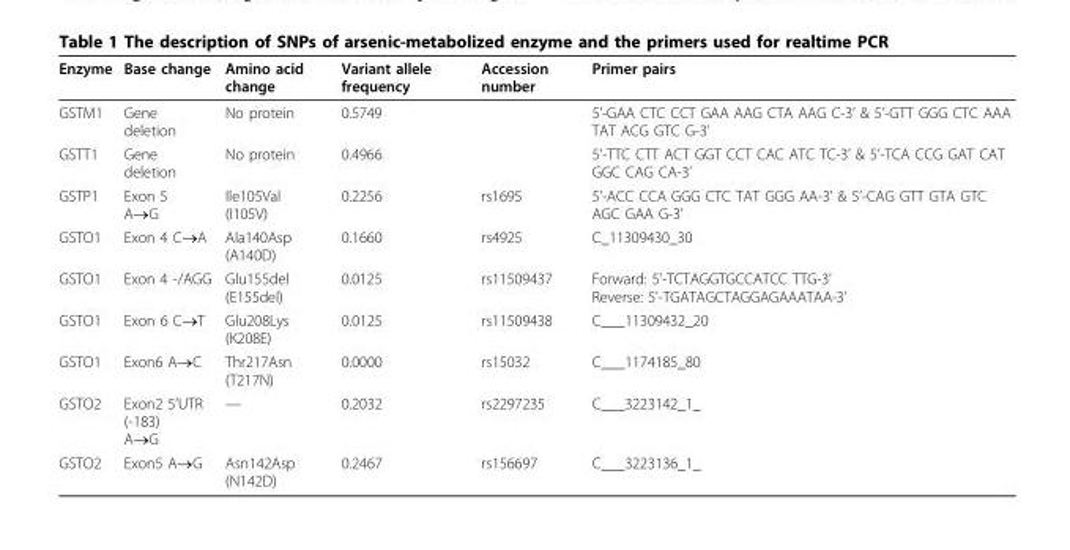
<table><thead><tr><td>Enzyme</td><td>Base change</td><td>Amino acid change</td><td>Variant allele frequency</td><td>Accession number</td><td>Primer pairs</td></tr></thead><tbody><tr><td>GSTM1</td><td>Gene deletion</td><td>No protein</td><td>0.5749</td><td></td><td>5’-GAA CTC CCT GAA AAG CTA AAG C-3’ &amp; 5’-GTT GGG CTC AAA TAT ACG GTC G-3’</td></tr><tr><td>GSTT1</td><td>Gene deletion</td><td>No protein</td><td>0.4966</td><td></td><td>5’-TTC CTT ACT GGT CCT CAC ATC TC-3’ &amp; 5’-TCA CCG GAT CAT GGC CAG CA-3’</td></tr><tr><td>GSTP1</td><td>Exon 5 A→G</td><td>Ile105Val (I105V)</td><td>0.2256</td><td>rs1695</td><td>5’-ACC CCA GGG CTC TAT GGG AA-3’ &amp; 5’-CAG GTT GTA GTC AGC GAA G-3’</td></tr><tr><td>GSTO1</td><td>Exon 4 C→A</td><td>Ala140Asp (A140D)</td><td>0.1660</td><td>rs4925</td><td>C_11309430_30</td></tr><tr><td>GSTO1</td><td>Exon 4 -/AGG</td><td>Glu155del (E155del)</td><td>0.0125</td><td>rs11509437</td><td>Forward: 5’-TCTAGGTGCCATCC TTG-3’ Reverse: 5’-TGATAGCTAGGAGAAATAA-3’</td></tr><tr><td>GSTO1</td><td>Exon 6 C→T</td><td>Glu208Lys (K208E)</td><td>0.0125</td><td>rs11509438</td><td>C___11309432_20</td></tr><tr><td>GSTO1</td><td>Exon6 A→C</td><td>Thr217Asn (T217N)</td><td>0.0000</td><td>rs15032</td><td>C___1174185_80</td></tr><tr><td>GSTO2</td><td>Exon2 5’UTR (-183) A→G</td><td>—</td><td>0.2032</td><td>rs2297235</td><td>C___3223142_1_</td></tr><tr><td>GSTO2</td><td>Exon5 A→G</td><td>Asn142Asp (N142D)</td><td>0.2467</td><td>rs156697</td><td>C___3223136_1_</td></tr></tbody></table>